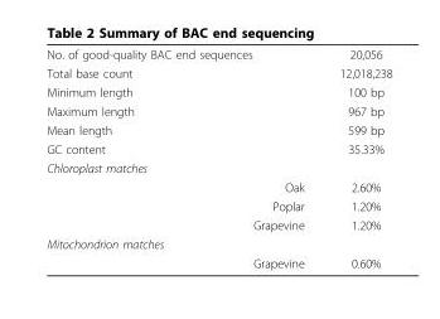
<table><tbody><tr><td>No. of good-quality BAC end sequences</td><td>20,056</td></tr><tr><td>Total base count</td><td>12,018,238</td></tr><tr><td>Minimum length</td><td>100 bp</td></tr><tr><td>Maximum length</td><td>967 bp</td></tr><tr><td>Mean length</td><td>599 bp</td></tr><tr><td>GC content</td><td>35.33%</td></tr><tr><td colspan="2">Chloroplast matches</td></tr><tr><td>Oak</td><td>2.60%</td></tr><tr><td>Poplar</td><td>1.20%</td></tr><tr><td>Grapevine</td><td>1.20%</td></tr><tr><td colspan="2">Mitochondrion matches</td></tr><tr><td>Grapevine</td><td>0.60%</td></tr></tbody></table>